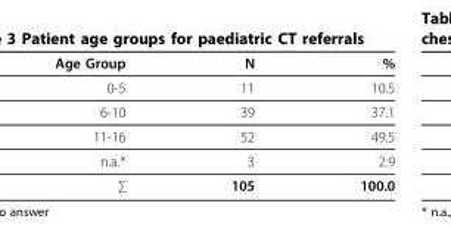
<table><thead><tr><td>Age Group</td><td>N</td><td>%</td></tr></thead><tbody><tr><td>0-5</td><td>11</td><td>10.5</td></tr><tr><td>6-10</td><td>39</td><td>37.1</td></tr><tr><td>11-16</td><td>52</td><td>49.5</td></tr><tr><td>n.a.*</td><td>3</td><td>2.9</td></tr><tr><td>∑</td><td>105</td><td>100.0</td></tr></tbody></table>